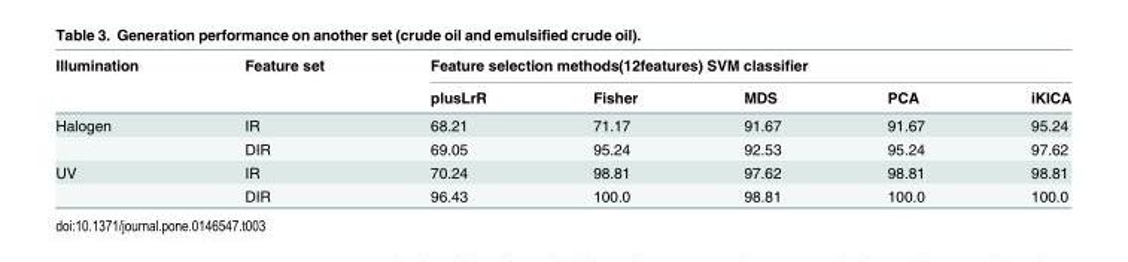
<table><thead><tr><td rowspan="2">Illumination</td><td rowspan="2">Feature set</td><td colspan="5">Feature selection methods(12features) SVM classifier</td></tr><tr><td>plusLrR</td><td>Fisher</td><td>MDS</td><td>PCA</td><td>iKICA</td></tr></thead><tbody><tr><td rowspan="2">Halogen</td><td>IR</td><td>68.21</td><td>71.17</td><td>91.67</td><td>91.67</td><td>95.24</td></tr><tr><td>DIR</td><td>69.05</td><td>95.24</td><td>92.53</td><td>95.24</td><td>97.62</td></tr><tr><td rowspan="2">UV</td><td>IR</td><td>70.24</td><td>98.81</td><td>97.62</td><td>98.81</td><td>98.81</td></tr><tr><td>DIR</td><td>96.43</td><td>100.0</td><td>98.81</td><td>100.0</td><td>100.0</td></tr></tbody></table>